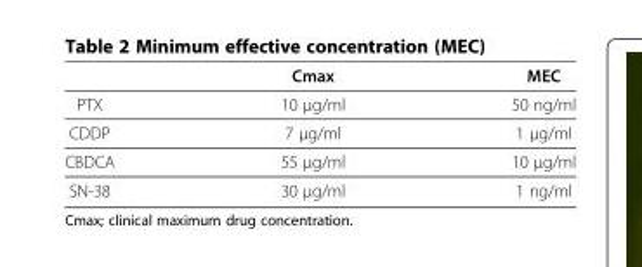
<table><thead><tr><td></td><td>Cmax</td><td>MEC</td></tr></thead><tbody><tr><td>PTX</td><td>10 μg/ml</td><td>50 ng/ml</td></tr><tr><td>CDDP</td><td>7 μg/ml</td><td>1 μg/ml</td></tr><tr><td>CBDCA</td><td>55 μg/ml</td><td>10 μg/ml</td></tr><tr><td>SN-38</td><td>30 μg/ml</td><td>1 ng/ml</td></tr></tbody></table>